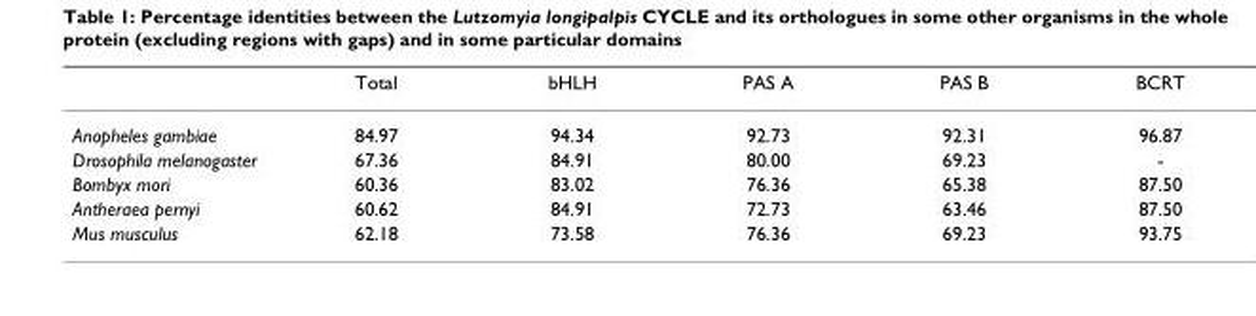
<table><thead><tr><td></td><td>Total</td><td>bHLH</td><td>PAS A</td><td>PAS B</td><td>BCRT</td></tr></thead><tbody><tr><td>Anopheles gambiae</td><td>84.97</td><td>94.34</td><td>92.73</td><td>92.31</td><td>96.87</td></tr><tr><td>Drosophila melanogaster</td><td>67.36</td><td>84.91</td><td>80.00</td><td>69.23</td><td>-</td></tr><tr><td>Bombyx mori</td><td>60.36</td><td>83.02</td><td>76.36</td><td>65.38</td><td>87.50</td></tr><tr><td>Antheraea pernyi</td><td>60.62</td><td>84.91</td><td>72.73</td><td>63.46</td><td>87.50</td></tr><tr><td>Mus musculus</td><td>62.18</td><td>73.58</td><td>76.36</td><td>69.23</td><td>93.75</td></tr></tbody></table>